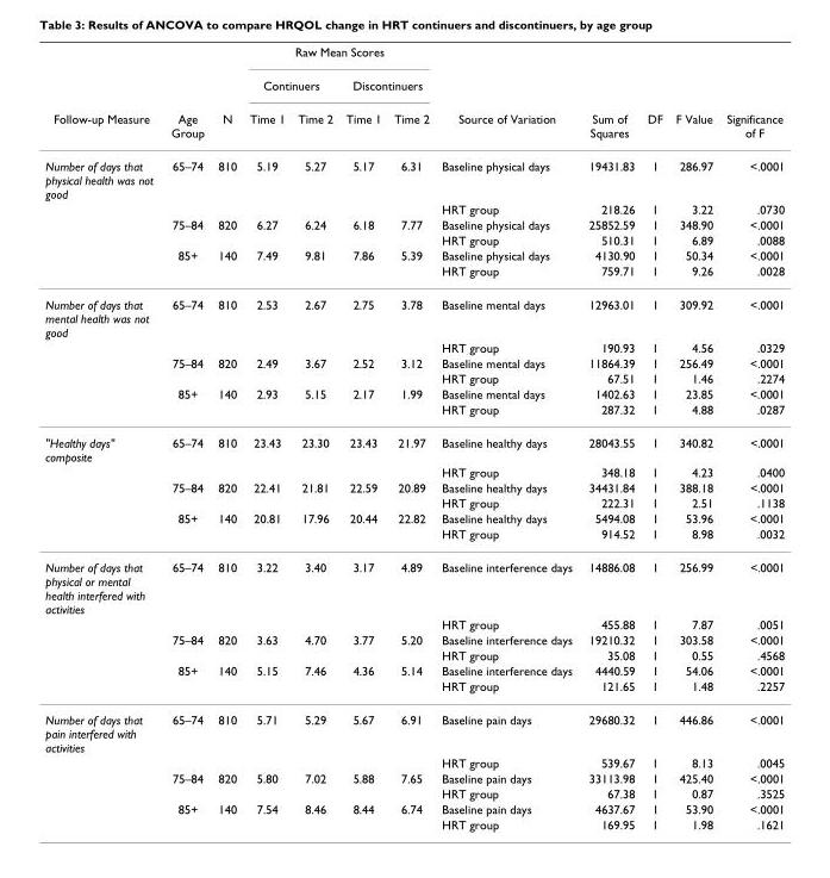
<table><thead><tr><td rowspan="3">Follow-up Measure</td><td rowspan="3">Age Group</td><td rowspan="3">N</td><td colspan="4">Raw Mean Scores</td><td rowspan="3">Source of Variation</td><td rowspan="3">Sum of Squares</td><td rowspan="3">DF</td><td rowspan="3">F Value</td><td rowspan="3">Significance of F</td></tr><tr><td colspan="2">Continuers</td><td colspan="2">Discontinuers</td></tr><tr><td>Time 1</td><td>Time 2</td><td>Time 1</td><td>Time 2</td></tr></thead><tbody><tr><td rowspan="6">Number of days that physical health was not good</td><td>65–74</td><td>810</td><td>5.19</td><td>5.27</td><td>5.17</td><td>6.31</td><td>Baseline physical days</td><td>19431.83</td><td>1</td><td>286.97</td><td>&lt;.0001</td></tr><tr><td></td><td></td><td></td><td></td><td></td><td></td><td>HRT group</td><td>218.26</td><td>1</td><td>3.22</td><td>.0730</td></tr><tr><td>75–84</td><td>820</td><td>6.27</td><td>6.24</td><td>6.18</td><td>7.77</td><td>Baseline physical days</td><td>25852.59</td><td>1</td><td>348.90</td><td>&lt;.0001</td></tr><tr><td></td><td></td><td></td><td></td><td></td><td></td><td>HRT group</td><td>510.31</td><td>1</td><td>6.89</td><td>.0088</td></tr><tr><td>85+</td><td>140</td><td>7.49</td><td>9.81</td><td>7.86</td><td>5.39</td><td>Baseline physical days</td><td>4130.90</td><td>1</td><td>50.34</td><td>&lt;.0001</td></tr><tr><td></td><td></td><td></td><td></td><td></td><td></td><td>HRT group</td><td>759.71</td><td>1</td><td>9.26</td><td>.0028</td></tr><tr><td rowspan="6">Number of days that mental health was not good</td><td>65–74</td><td>810</td><td>2.53</td><td>2.67</td><td>2.75</td><td>3.78</td><td>Baseline mental days</td><td>12963.01</td><td>1</td><td>309.92</td><td>&lt;.0001</td></tr><tr><td></td><td></td><td></td><td></td><td></td><td></td><td>HRT group</td><td>190.93</td><td>1</td><td>4.56</td><td>.0329</td></tr><tr><td>75–84</td><td>820</td><td>2.49</td><td>3.67</td><td>2.52</td><td>3.12</td><td>Baseline mental days</td><td>11864.39</td><td>1</td><td>256.49</td><td>&lt;.0001</td></tr><tr><td></td><td></td><td></td><td></td><td></td><td></td><td>HRT group</td><td>67.51</td><td>1</td><td>1.46</td><td>.2274</td></tr><tr><td>85+</td><td>140</td><td>2.93</td><td>5.15</td><td>2.17</td><td>1.99</td><td>Baseline mental days</td><td>1402.63</td><td>1</td><td>23.85</td><td>&lt;.0001</td></tr><tr><td></td><td></td><td></td><td></td><td></td><td></td><td>HRT group</td><td>287.32</td><td>1</td><td>4.88</td><td>.0287</td></tr><tr><td rowspan="6">&quot;Healthy days&quot; composite</td><td>65–74</td><td>810</td><td>23.43</td><td>23.30</td><td>23.43</td><td>21.97</td><td>Baseline healthy days</td><td>28043.55</td><td>1</td><td>340.82</td><td>&lt;.0001</td></tr><tr><td></td><td></td><td></td><td></td><td></td><td></td><td>HRT group</td><td>348.18</td><td>1</td><td>4.23</td><td>.0400</td></tr><tr><td>75–84</td><td>820</td><td>22.41</td><td>21.81</td><td>22.59</td><td>20.89</td><td>Baseline healthy days</td><td>34431.84</td><td>1</td><td>388.18</td><td>&lt;.0001</td></tr><tr><td></td><td></td><td></td><td></td><td></td><td></td><td>HRT group</td><td>222.31</td><td>1</td><td>2.51</td><td>.1138</td></tr><tr><td>85+</td><td>140</td><td>20.81</td><td>17.96</td><td>20.44</td><td>22.82</td><td>Baseline healthy days</td><td>5494.08</td><td>1</td><td>53.96</td><td>&lt;.0001</td></tr><tr><td></td><td></td><td></td><td></td><td></td><td></td><td>HRT group</td><td>914.52</td><td>1</td><td>8.98</td><td>.0032</td></tr><tr><td rowspan="6">Number of days that physical or mental health interfered with activities</td><td>65–74</td><td>810</td><td>3.22</td><td>3.40</td><td>3.17</td><td>4.89</td><td>Baseline interference days</td><td>14886.08</td><td>1</td><td>256.99</td><td>&lt;.0001</td></tr><tr><td></td><td></td><td></td><td></td><td></td><td></td><td>HRT group</td><td>455.88</td><td>1</td><td>7.87</td><td>.0051</td></tr><tr><td>75–84</td><td>820</td><td>3.63</td><td>4.70</td><td>3.77</td><td>5.20</td><td>Baseline interference days</td><td>19210.32</td><td>1</td><td>303.58</td><td>&lt;.0001</td></tr><tr><td></td><td></td><td></td><td></td><td></td><td></td><td>HRT group</td><td>35.08</td><td>1</td><td>0.55</td><td>.4568</td></tr><tr><td>85+</td><td>140</td><td>5.15</td><td>7.46</td><td>4.36</td><td>5.14</td><td>Baseline interference days</td><td>4440.59</td><td>1</td><td>54.06</td><td>&lt;.0001</td></tr><tr><td></td><td></td><td></td><td></td><td></td><td></td><td>HRT group</td><td>121.65</td><td>1</td><td>1.48</td><td>.2257</td></tr><tr><td rowspan="6">Number of days that pain interfered with activities</td><td>65–74</td><td>810</td><td>5.71</td><td>5.29</td><td>5.67</td><td>6.91</td><td>Baseline pain days</td><td>29680.32</td><td>1</td><td>446.86</td><td>&lt;.0001</td></tr><tr><td></td><td></td><td></td><td></td><td></td><td></td><td>HRT group</td><td>539.67</td><td>1</td><td>8.13</td><td>.0045</td></tr><tr><td>75–84</td><td>820</td><td>5.80</td><td>7.02</td><td>5.88</td><td>7.65</td><td>Baseline pain days</td><td>33113.98</td><td>1</td><td>425.40</td><td>&lt;.0001</td></tr><tr><td></td><td></td><td></td><td></td><td></td><td></td><td>HRT group</td><td>67.38</td><td>1</td><td>0.87</td><td>.3525</td></tr><tr><td>85+</td><td>140</td><td>7.54</td><td>8.46</td><td>8.44</td><td>6.74</td><td>Baseline pain days</td><td>4637.67</td><td>1</td><td>53.90</td><td>&lt;.0001</td></tr><tr><td></td><td></td><td></td><td></td><td></td><td></td><td>HRT group</td><td>169.95</td><td>1</td><td>1.98</td><td>.1621</td></tr></tbody></table>